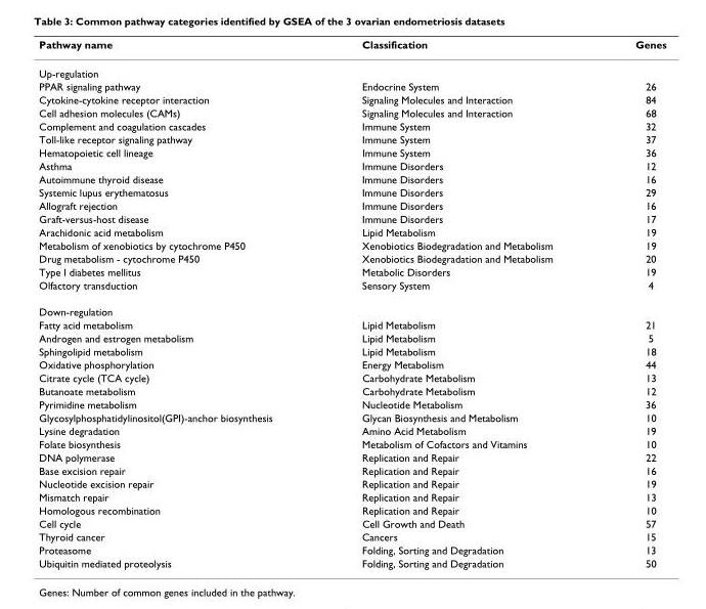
<table><thead><tr><td>Pathway name</td><td>Classification</td><td>Genes</td></tr></thead><tbody><tr><td colspan="3">Up-regulation</td></tr><tr><td>PPAR signaling pathway</td><td>Endocrine System</td><td>26</td></tr><tr><td>Cytokine-cytokine receptor interaction</td><td>Signaling Molecules and Interaction</td><td>84</td></tr><tr><td>Cell adhesion molecules (CAMs)</td><td>Signaling Molecules and Interaction</td><td>68</td></tr><tr><td>Complement and coagulation cascades</td><td>Immune System</td><td>32</td></tr><tr><td>Toll-like receptor signaling pathway</td><td>Immune System</td><td>37</td></tr><tr><td>Hematopoietic cell lineage</td><td>Immune System</td><td>36</td></tr><tr><td>Asthma</td><td>Immune Disorders</td><td>12</td></tr><tr><td>Autoimmune thyroid disease</td><td>Immune Disorders</td><td>16</td></tr><tr><td>Systemic lupus erythematosus</td><td>Immune Disorders</td><td>29</td></tr><tr><td>Allograft rejection</td><td>Immune Disorders</td><td>16</td></tr><tr><td>Graft-versus-host disease</td><td>Immune Disorders</td><td>17</td></tr><tr><td>Arachidonic acid metabolism</td><td>Lipid Metabolism</td><td>19</td></tr><tr><td>Metabolism of xenobiotics by cytochrome P450</td><td>Xenobiotics Biodegradation and Metabolism</td><td>19</td></tr><tr><td>Drug metabolism - cytochrome P450</td><td>Xenobiotics Biodegradation and Metabolism</td><td>20</td></tr><tr><td>Type I diabetes mellitus</td><td>Metabolic Disorders</td><td>19</td></tr><tr><td>Olfactory transduction</td><td>Sensory System</td><td>4</td></tr><tr><td colspan="3">Down-regulation</td></tr><tr><td>Fatty acid metabolism</td><td>Lipid Metabolism</td><td>21</td></tr><tr><td>Androgen and estrogen metabolism</td><td>Lipid Metabolism</td><td>5</td></tr><tr><td>Sphingolipid metabolism</td><td>Lipid Metabolism</td><td>18</td></tr><tr><td>Oxidative phosphorylation</td><td>Energy Metabolism</td><td>44</td></tr><tr><td>Citrate cycle (TCA cycle)</td><td>Carbohydrate Metabolism</td><td>13</td></tr><tr><td>Butanoate metabolism</td><td>Carbohydrate Metabolism</td><td>12</td></tr><tr><td>Pyrimidine metabolism</td><td>Nucleotide Metabolism</td><td>36</td></tr><tr><td>Glycosylphosphatidylinositol(GPI)-anchor biosynthesis</td><td>Glycan Biosynthesis and Metabolism</td><td>10</td></tr><tr><td>Lysine degradation</td><td>Amino Acid Metabolism</td><td>19</td></tr><tr><td>Folate biosynthesis</td><td>Metabolism of Cofactors and Vitamins</td><td>10</td></tr><tr><td>DNA polymerase</td><td>Replication and Repair</td><td>22</td></tr><tr><td>Base excision repair</td><td>Replication and Repair</td><td>16</td></tr><tr><td>Nucleotide excision repair</td><td>Replication and Repair</td><td>19</td></tr><tr><td>Mismatch repair</td><td>Replication and Repair</td><td>13</td></tr><tr><td>Homologous recombination</td><td>Replication and Repair</td><td>10</td></tr><tr><td>Cell cycle</td><td>Cell Growth and Death</td><td>57</td></tr><tr><td>Thyroid cancer</td><td>Cancers</td><td>15</td></tr><tr><td>Proteasome</td><td>Folding, Sorting and Degradation</td><td>13</td></tr><tr><td>Ubiquitin mediated proteolysis</td><td>Folding, Sorting and Degradation</td><td>50</td></tr></tbody></table>